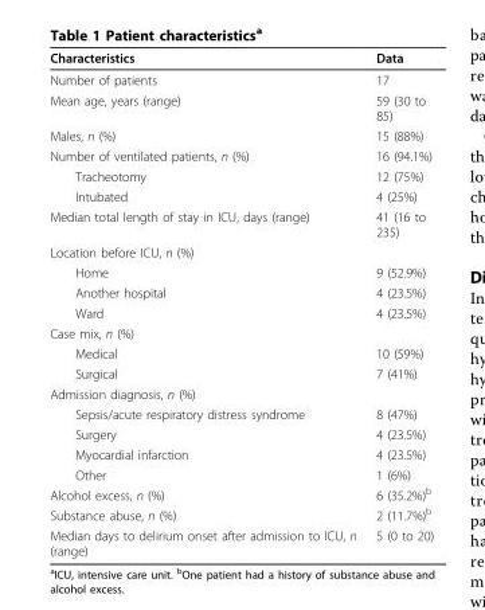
<table><thead><tr><td>Characteristics</td><td>Data</td></tr></thead><tbody><tr><td>Number of patients</td><td>17</td></tr><tr><td>Mean age, years (range)</td><td>59 (30 to 85)</td></tr><tr><td>Males, n (%)</td><td>15 (88%)</td></tr><tr><td>Number of ventilated patients, n (%)</td><td>16 (94.1%)</td></tr><tr><td>Tracheotomy</td><td>12 (75%)</td></tr><tr><td>Intubated</td><td>4 (25%)</td></tr><tr><td>Median total length of stay in ICU, days (range)</td><td>41 (16 to 235)</td></tr><tr><td colspan="2">Location before ICU, n (%)</td></tr><tr><td>Home</td><td>9 (52.9%)</td></tr><tr><td>Another hospital</td><td>4 (23.5%)</td></tr><tr><td>Ward</td><td>4 (23.5%)</td></tr><tr><td colspan="2">Case mix, n (%)</td></tr><tr><td>Medical</td><td>10 (59%)</td></tr><tr><td>Surgical</td><td>7 (41%)</td></tr><tr><td colspan="2">Admission diagnosis, n (%)</td></tr><tr><td>Sepsis/acute respiratory distress syndrome</td><td>8 (47%)</td></tr><tr><td>Surgery</td><td>4 (23.5%)</td></tr><tr><td>Myocardial infarction</td><td>4 (23.5%)</td></tr><tr><td>Other</td><td>1 (6%)</td></tr><tr><td>Alcohol excess, n (%)</td><td>6 (35.2%)<sup>b</sup></td></tr><tr><td>Substance abuse, n (%)</td><td>2 (11.7%)<sup>b</sup></td></tr><tr><td>Median days to delirium onset after admission to ICU, n (range)</td><td>5 (0 to 20)</td></tr></tbody></table>